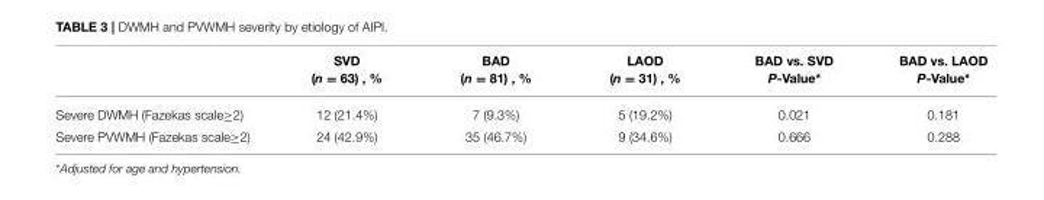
<table><thead><tr><td></td><td>SVD (n = 63) , %</td><td>BAD (n = 81) , %</td><td>LAOD (n = 31) , %</td><td>BAD vs. SVD P-Value*</td><td>BAD vs. LAOD P-Value*</td></tr></thead><tbody><tr><td>Severe DWMH (Fazekas scale≥2)</td><td>12 (21.4%)</td><td>7 (9.3%)</td><td>5 (19.2%)</td><td>0.021</td><td>0.181</td></tr><tr><td>Severe PVWMH (Fazekas scale≥2)</td><td>24 (42.9%)</td><td>35 (46.7%)</td><td>9 (34.6%)</td><td>0.666</td><td>0.288</td></tr></tbody></table>